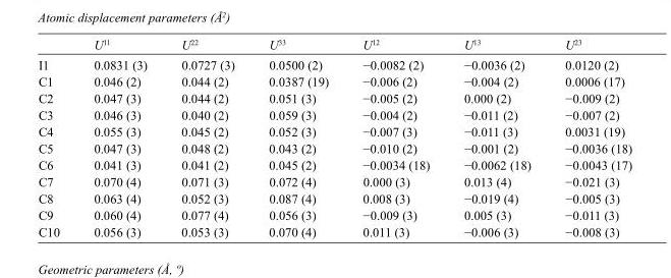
<table><thead><tr><td></td><td>U<sup>11</sup></td><td>U<sup>22</sup></td><td>U<sup>33</sup></td><td>U<sup>12</sup></td><td>U<sup>13</sup></td><td>U<sup>23</sup></td></tr></thead><tbody><tr><td>I1</td><td>0.0831 (3)</td><td>0.0727 (3)</td><td>0.0500 (2)</td><td>−0.0082 (2)</td><td>−0.0036 (2)</td><td>0.0120 (2)</td></tr><tr><td>C1</td><td>0.046 (2)</td><td>0.044 (2)</td><td>0.0387 (19)</td><td>−0.006 (2)</td><td>−0.004 (2)</td><td>0.0006 (17)</td></tr><tr><td>C2</td><td>0.047 (3)</td><td>0.044 (2)</td><td>0.051 (3)</td><td>−0.005 (2)</td><td>0.000 (2)</td><td>−0.009 (2)</td></tr><tr><td>C3</td><td>0.046 (3)</td><td>0.040 (2)</td><td>0.059 (3)</td><td>−0.004 (2)</td><td>−0.011 (2)</td><td>−0.007 (2)</td></tr><tr><td>C4</td><td>0.055 (3)</td><td>0.045 (2)</td><td>0.052 (3)</td><td>−0.007 (3)</td><td>−0.011 (3)</td><td>0.0031 (19)</td></tr><tr><td>C5</td><td>0.047 (3)</td><td>0.048 (2)</td><td>0.043 (2)</td><td>−0.010 (2)</td><td>−0.001 (2)</td><td>−0.0036 (18)</td></tr><tr><td>C6</td><td>0.041 (3)</td><td>0.041 (2)</td><td>0.045 (2)</td><td>−0.0034 (18)</td><td>−0.0062 (18)</td><td>−0.0043 (17)</td></tr><tr><td>C7</td><td>0.070 (4)</td><td>0.071 (3)</td><td>0.072 (4)</td><td>0.000 (3)</td><td>0.013 (4)</td><td>−0.021 (3)</td></tr><tr><td>C8</td><td>0.063 (4)</td><td>0.052 (3)</td><td>0.087 (4)</td><td>0.008 (3)</td><td>−0.019 (4)</td><td>−0.005 (3)</td></tr><tr><td>C9</td><td>0.060 (4)</td><td>0.077 (4)</td><td>0.056 (3)</td><td>−0.009 (3)</td><td>0.005 (3)</td><td>−0.011 (3)</td></tr><tr><td>C10</td><td>0.056 (3)</td><td>0.053 (3)</td><td>0.070 (4)</td><td>0.011 (3)</td><td>−0.006 (3)</td><td>−0.008 (3)</td></tr></tbody></table>